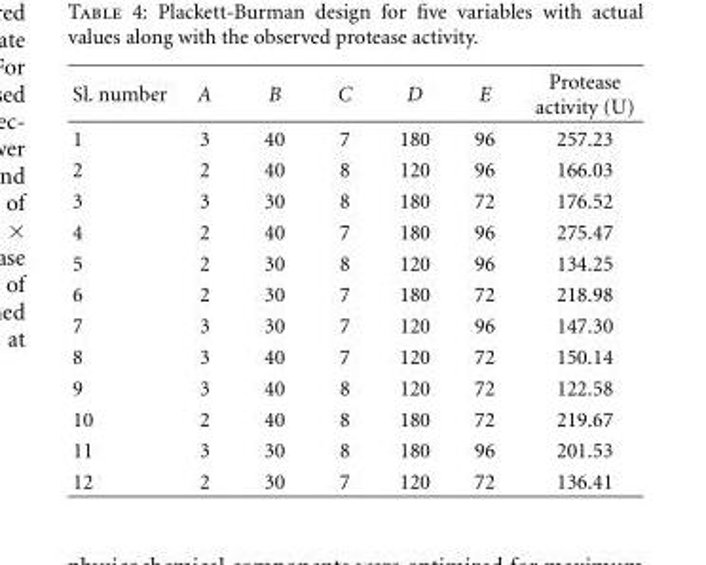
<table><thead><tr><td>Sl. number</td><td>A</td><td>B</td><td>C</td><td>D</td><td>E</td><td>Protease activity (U)</td></tr></thead><tbody><tr><td>1</td><td>3</td><td>40</td><td>7</td><td>180</td><td>96</td><td>257.23</td></tr><tr><td>2</td><td>2</td><td>40</td><td>8</td><td>120</td><td>96</td><td>166.03</td></tr><tr><td>3</td><td>3</td><td>30</td><td>8</td><td>180</td><td>72</td><td>176.52</td></tr><tr><td>4</td><td>2</td><td>40</td><td>7</td><td>180</td><td>96</td><td>275.47</td></tr><tr><td>5</td><td>2</td><td>30</td><td>8</td><td>120</td><td>96</td><td>134.25</td></tr><tr><td>6</td><td>2</td><td>30</td><td>7</td><td>180</td><td>72</td><td>218.98</td></tr><tr><td>7</td><td>3</td><td>30</td><td>7</td><td>120</td><td>96</td><td>147.30</td></tr><tr><td>8</td><td>3</td><td>40</td><td>7</td><td>120</td><td>72</td><td>150.14</td></tr><tr><td>9</td><td>3</td><td>40</td><td>8</td><td>120</td><td>72</td><td>122.58</td></tr><tr><td>10</td><td>2</td><td>40</td><td>8</td><td>180</td><td>72</td><td>219.67</td></tr><tr><td>11</td><td>3</td><td>30</td><td>8</td><td>180</td><td>96</td><td>201.53</td></tr><tr><td>12</td><td>2</td><td>30</td><td>7</td><td>120</td><td>72</td><td>136.41</td></tr></tbody></table>